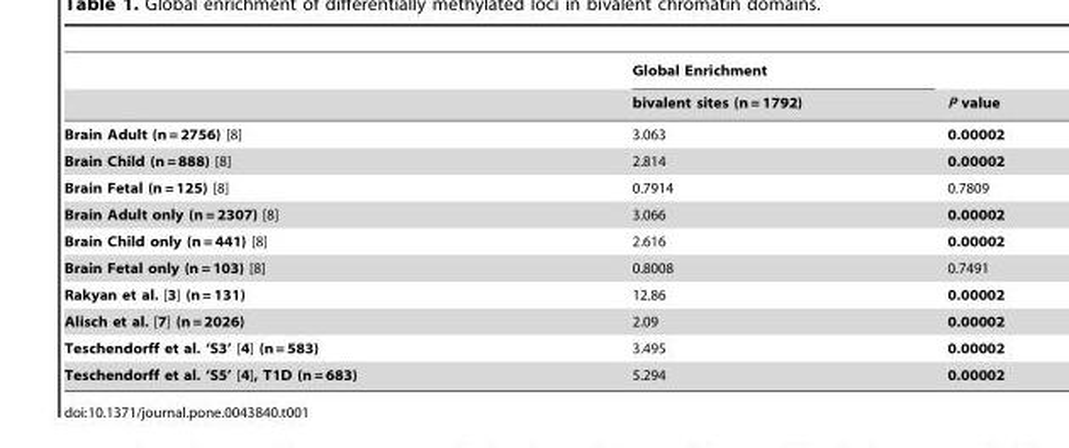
<table><thead><tr><td rowspan="2"></td><td rowspan="2">Global Enrichment bivalent sites (n = 1792)</td><td rowspan="2">P value</td></tr><tr></tr></thead><tbody><tr><td>Brain Adult (n = 2756) [8]</td><td>3.063</td><td>0.00002</td></tr><tr><td>Brain Child (n = 888) [8]</td><td>2.814</td><td>0.00002</td></tr><tr><td>Brain Fetal (n = 125) [8]</td><td>0.7914</td><td>0.7809</td></tr><tr><td>Brain Adult only (n = 2307) [8]</td><td>3.066</td><td>0.00002</td></tr><tr><td>Brain Child only (n = 441) [8]</td><td>2.616</td><td>0.00002</td></tr><tr><td>Brain Fetal only (n = 103) [8]</td><td>0.8008</td><td>0.7491</td></tr><tr><td>Rakyan et al. [3] (n = 131)</td><td>12.86</td><td>0.00002</td></tr><tr><td>Alisch et al. [7] (n = 2026)</td><td>2.09</td><td>0.00002</td></tr><tr><td>Teschendorff et al. ‘S3’ [4] (n = 583)</td><td>3.495</td><td>0.00002</td></tr><tr><td>Teschendorff et al. ‘S5’ [4], T1D (n = 683)</td><td>5.294</td><td>0.00002</td></tr></tbody></table>